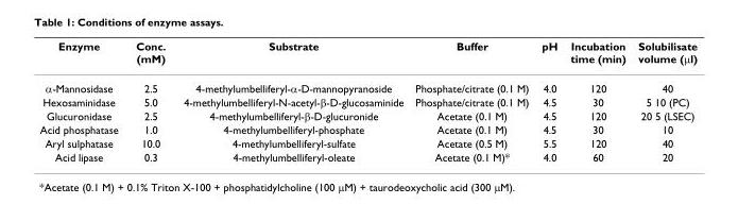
<table><thead><tr><td>Enzyme</td><td>Conc. (mM)</td><td>Substrate</td><td>Buffer</td><td>pH</td><td>Incubation time (min)</td><td>Solubilisate volume (µl)</td></tr></thead><tbody><tr><td>α-Mannosidase</td><td>2.5</td><td>4-methylumbelliferyl-α-D-mannopyranoside</td><td>Phosphate/citrate (0.1 M)</td><td>4.0</td><td>120</td><td>40</td></tr><tr><td>Hexosaminidase</td><td>5.0</td><td>4-methylumbelliferyl-N-acetyl-β-D-glucosaminide</td><td>Phosphate/citrate (0.1 M)</td><td>4.5</td><td>30</td><td>5 10 (PC)</td></tr><tr><td>Glucuronidase</td><td>2.5</td><td>4-methylumbelliferyl-β-D-glucuronide</td><td>Acetate (0.1 M)</td><td>4.5</td><td>120</td><td>20 5 (LSEC)</td></tr><tr><td>Acid phosphatase</td><td>1.0</td><td>4-methylumbelliferyl-phosphate</td><td>Acetate (0.1 M)</td><td>4.5</td><td>30</td><td>10</td></tr><tr><td>Aryl sulphatase</td><td>10.0</td><td>4-methylumbelliferyl-sulfate</td><td>Acetate (0.5 M)</td><td>5.5</td><td>120</td><td>40</td></tr><tr><td>Acid lipase</td><td>0.3</td><td>4-methylumbelliferyl-oleate</td><td>Acetate (0.1 M)*</td><td>4.0</td><td>60</td><td>20</td></tr></tbody></table>